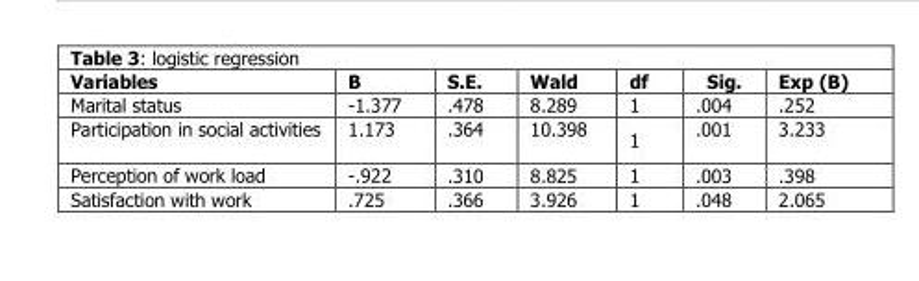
<table><thead><tr><td>Variables</td><td>B</td><td>S.E.</td><td>Wald</td><td>df</td><td>Sig.</td><td>Exp (B)</td></tr></thead><tbody><tr><td>Marital status</td><td>-1.377</td><td>.478</td><td>8.289</td><td>1</td><td>.004</td><td>.252</td></tr><tr><td>Participation in social activities</td><td>1.173</td><td>.364</td><td>10.398</td><td>1</td><td>.001</td><td>3.233</td></tr><tr><td>Perception of work load</td><td>-.922</td><td>.310</td><td>8.825</td><td>1</td><td>.003</td><td>.398</td></tr><tr><td>Satisfaction with work</td><td>.725</td><td>.366</td><td>3.926</td><td>1</td><td>.048</td><td>2.065</td></tr></tbody></table>